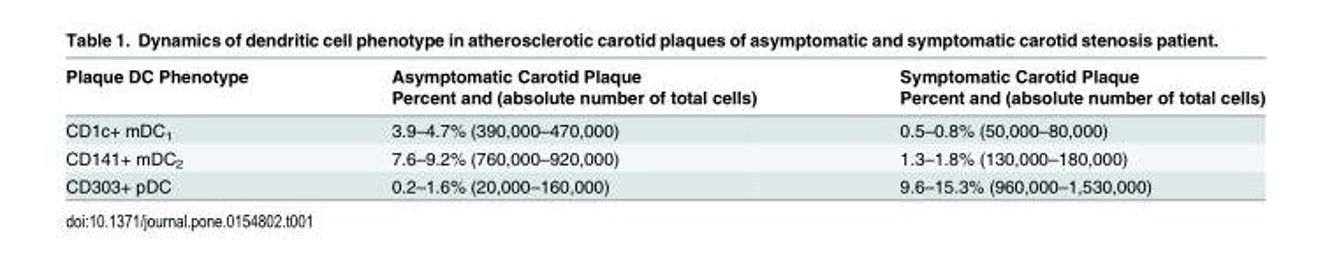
<table><thead><tr><td rowspan="2">Plaque DC Phenotype</td><td rowspan="2">Asymptomatic Carotid Plaque Percent and (absolute number of total cells)</td><td rowspan="2">Symptomatic Carotid Plaque Percent and (absolute number of total cells)</td></tr><tr></tr></thead><tbody><tr><td>CD1c+ mDC<sub>1</sub></td><td>3.9–4.7% (390,000–470,000)</td><td>0.5–0.8% (50,000–80,000)</td></tr><tr><td>CD141+ mDC<sub>2</sub></td><td>7.6–9.2% (760,000–920,000)</td><td>1.3–1.8% (130,000–180,000)</td></tr><tr><td>CD303+ pDC</td><td>0.2–1.6% (20,000–160,000)</td><td>9.6–15.3% (960,000–1,530,000)</td></tr></tbody></table>